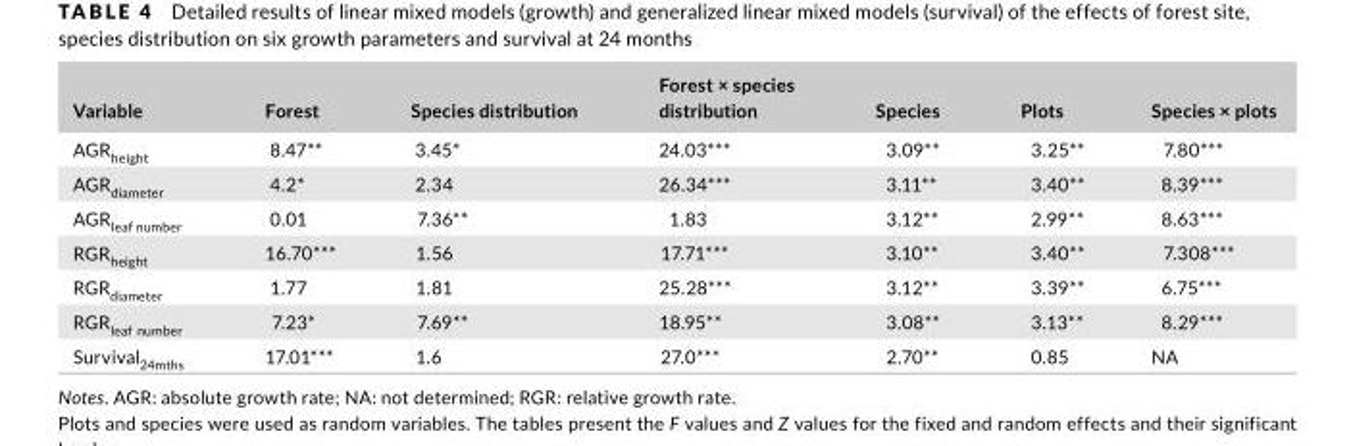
<table><thead><tr><td>Variable</td><td>Forest</td><td>Species distribution</td><td>Forest × species distribution</td><td>Species</td><td>Plots</td><td>Species × plots</td></tr></thead><tbody><tr><td>AGR<sub>height</sub></td><td>8.47**</td><td>3.45*</td><td>24.03***</td><td>3.09**</td><td>3.25**</td><td>7.80***</td></tr><tr><td>AGR<sub>diameter</sub></td><td>4.2*</td><td>2.34</td><td>26.34***</td><td>3.11**</td><td>3.40**</td><td>8.39***</td></tr><tr><td>AGR<sub>leaf number</sub></td><td>0.01</td><td>7.36**</td><td>1.83</td><td>3.12**</td><td>2.99**</td><td>8.63***</td></tr><tr><td>RGR<sub>height</sub></td><td>16.70***</td><td>1.56</td><td>17.71***</td><td>3.10**</td><td>3.40**</td><td>7.308***</td></tr><tr><td>RGR<sub>diameter</sub></td><td>1.77</td><td>1.81</td><td>25.28***</td><td>3.12**</td><td>3.39**</td><td>6.75***</td></tr><tr><td>RGR<sub>leaf number</sub></td><td>7.23*</td><td>7.69**</td><td>18.95**</td><td>3.08**</td><td>3.13**</td><td>8.29***</td></tr><tr><td>Survival<sub>24mths</sub></td><td>17.01***</td><td>1.6</td><td>27.0***</td><td>2.70**</td><td>0.85</td><td>NA</td></tr></tbody></table>